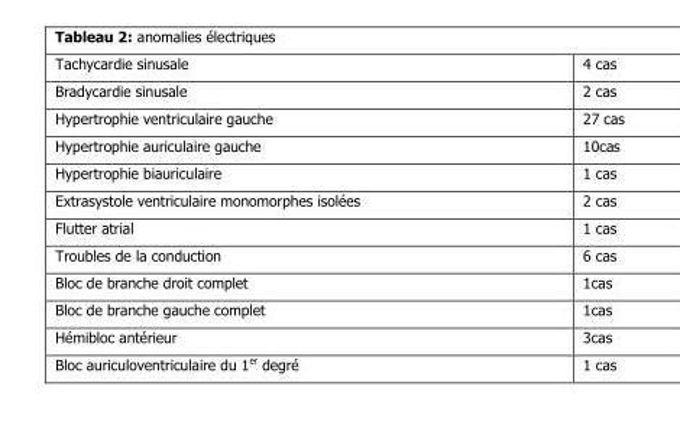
<table><tbody><tr><td>Tachycardie sinusale</td><td>4 cas</td></tr><tr><td>Bradycardie sinusale</td><td>2 cas</td></tr><tr><td>Hypertrophie ventriculaire gauche</td><td>27 cas</td></tr><tr><td>Hypertrophie auriculaire gauche</td><td>10cas</td></tr><tr><td>Hypertrophie biauriculaire</td><td>1 cas</td></tr><tr><td>Extrasystole ventriculaire monomorphes isolées</td><td>2 cas</td></tr><tr><td>Flutter atrial</td><td>1 cas</td></tr><tr><td>Troubles de la conduction</td><td>6 cas</td></tr><tr><td>Bloc de branche droit complet</td><td>1cas</td></tr><tr><td>Bloc de branche gauche complet</td><td>1cas</td></tr><tr><td>Hémibloc antérieur</td><td>3cas</td></tr><tr><td>Bloc auriculoventriculaire du 1<sup>er</sup> degré</td><td>1 cas</td></tr></tbody></table>